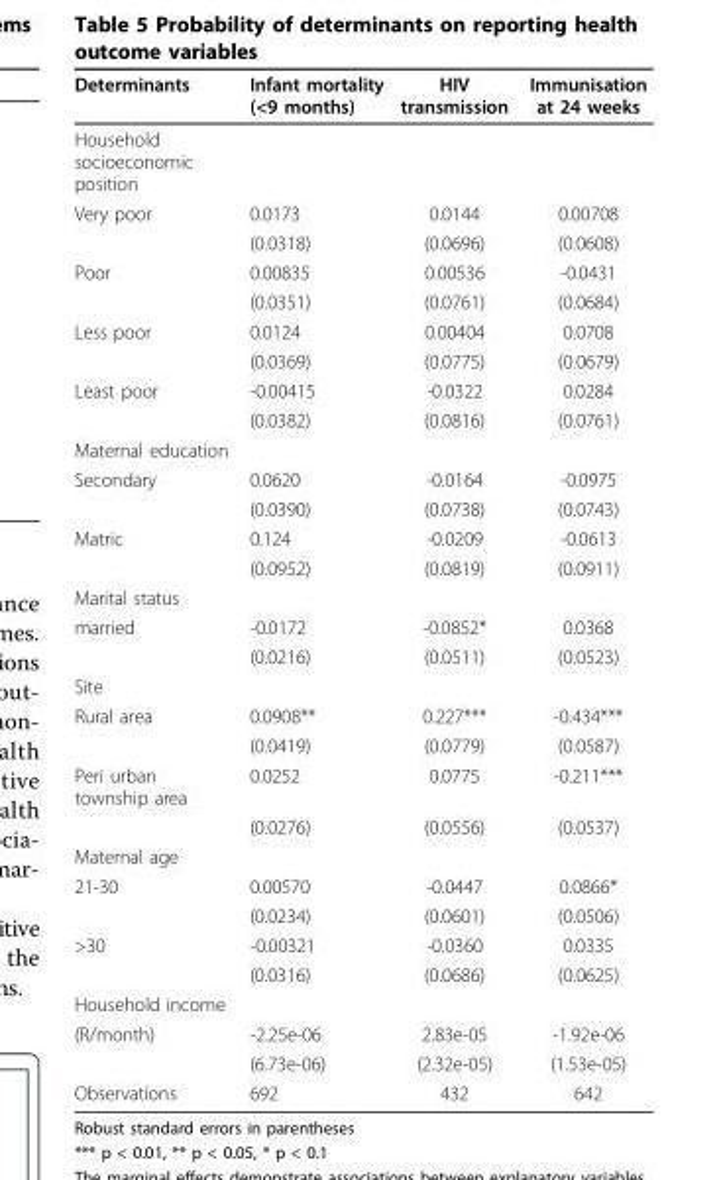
<table><thead><tr><td>Determinants</td><td>Infant mortality (&lt;9 months)</td><td>HIV transmission</td><td>Immunisation at 24 weeks</td></tr></thead><tbody><tr><td colspan="4">Household socioeconomic position</td></tr><tr><td rowspan="2">Very poor</td><td>0.0173</td><td>0.0144</td><td>0.00708</td></tr><tr><td>(0.0318)</td><td>(0.0696)</td><td>(0.0608)</td></tr><tr><td rowspan="2">Poor</td><td>0.00835</td><td>0.00536</td><td>-0.0431</td></tr><tr><td>(0.0351)</td><td>(0.0761)</td><td>(0.0684)</td></tr><tr><td rowspan="2">Less poor</td><td>0.0124</td><td>0.00404</td><td>0.0708</td></tr><tr><td>(0.0369)</td><td>(0.0775)</td><td>(0.0679)</td></tr><tr><td rowspan="2">Least poor</td><td>-0.00415</td><td>-0.0322</td><td>0.0284</td></tr><tr><td>(0.0382)</td><td>(0.0816)</td><td>(0.0761)</td></tr><tr><td colspan="4">Maternal education</td></tr><tr><td rowspan="2">Secondary</td><td>0.0620</td><td>-0.0164</td><td>-0.0975</td></tr><tr><td>(0.0390)</td><td>(0.0738)</td><td>(0.0743)</td></tr><tr><td rowspan="2">Matric</td><td>0.124</td><td>-0.0209</td><td>-0.0613</td></tr><tr><td>(0.0952)</td><td>(0.0819)</td><td>(0.0911)</td></tr><tr><td colspan="4">Marital status</td></tr><tr><td rowspan="2">married</td><td>-0.0172</td><td>-0.0852*</td><td>0.0368</td></tr><tr><td>(0.0216)</td><td>(0.0511)</td><td>(0.0523)</td></tr><tr><td colspan="4">Site</td></tr><tr><td rowspan="2">Rural area</td><td>0.0908**</td><td>0.227***</td><td>-0.434***</td></tr><tr><td>(0.0419)</td><td>(0.0779)</td><td>(0.0587)</td></tr><tr><td rowspan="2">Peri urban township area</td><td>0.0252</td><td>0.0775</td><td>-0.211***</td></tr><tr><td>(0.0276)</td><td>(0.0556)</td><td>(0.0537)</td></tr><tr><td colspan="4">Maternal age</td></tr><tr><td rowspan="2">21-30</td><td>0.00570</td><td>-0.0447</td><td>0.0866*</td></tr><tr><td>(0.0234)</td><td>(0.0601)</td><td>(0.0506)</td></tr><tr><td rowspan="2">&gt;30</td><td>-0.00321</td><td>-0.0360</td><td>0.0335</td></tr><tr><td>(0.0316)</td><td>(0.0686)</td><td>(0.0625)</td></tr><tr><td colspan="4">Household income</td></tr><tr><td rowspan="2">(R/month)</td><td>-2.25e-06</td><td>2.83e-05</td><td>-1.92e-06</td></tr><tr><td>(6.73e-06)</td><td>(2.32e-05)</td><td>(1.53e-05)</td></tr><tr><td>Observations</td><td>692</td><td>432</td><td>642</td></tr></tbody></table>